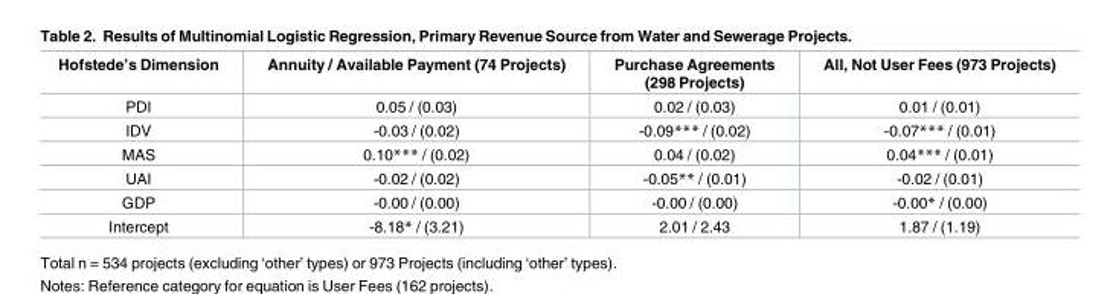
<table><thead><tr><td>Hofstede’s Dimension</td><td>Annuity / Available Payment (74 Projects)</td><td>Purchase Agreements (298 Projects)</td><td>All, Not User Fees (973 Projects)</td></tr></thead><tbody><tr><td>PDI</td><td>0.05 / (0.03)</td><td>0.02 / (0.03)</td><td>0.01 / (0.01)</td></tr><tr><td>IDV</td><td>-0.03 / (0.02)</td><td>-0.09*** / (0.02)</td><td>-0.07*** / (0.01)</td></tr><tr><td>MAS</td><td>0.10*** / (0.02)</td><td>0.04 / (0.02)</td><td>0.04*** / (0.01)</td></tr><tr><td>UAI</td><td>-0.02 / (0.02)</td><td>-0.05** / (0.01)</td><td>-0.02 / (0.01)</td></tr><tr><td>GDP</td><td>-0.00 / (0.00)</td><td>-0.00 / (0.00)</td><td>-0.00* / (0.00)</td></tr><tr><td>Intercept</td><td>-8.18* / (3.21)</td><td>2.01 / 2.43</td><td>1.87 / (1.19)</td></tr></tbody></table>